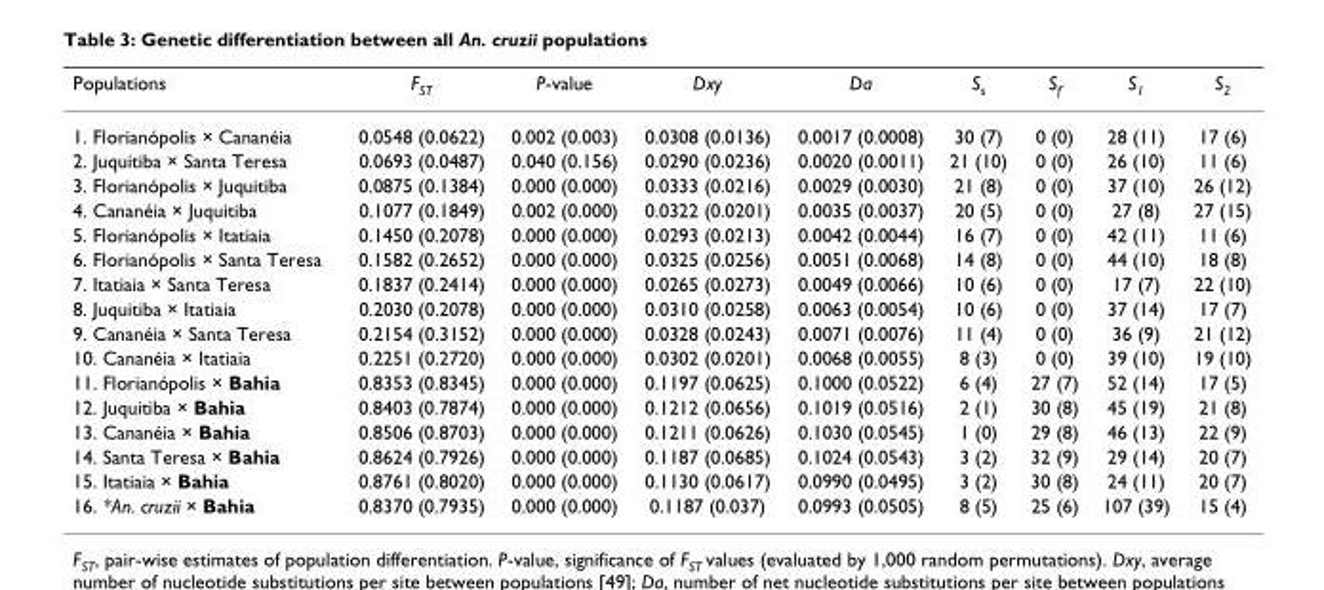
<table><thead><tr><td>Populations</td><td>F<sub>ST</sub></td><td>P-value</td><td>Dxy</td><td>Da</td><td>S<sub>s</sub></td><td>S<sub>f</sub></td><td>S<sub>1</sub></td><td>S<sub>2</sub></td></tr></thead><tbody><tr><td>1. Florianópolis × Cananéia</td><td>0.0548 (0.0622)</td><td>0.002 (0.003)</td><td>0.0308 (0.0136)</td><td>0.0017 (0.0008)</td><td>30 (7)</td><td>0 (0)</td><td>28 (11)</td><td>17 (6)</td></tr><tr><td>2. Juquitiba × Santa Teresa</td><td>0.0693 (0.0487)</td><td>0.040 (0.156)</td><td>0.0290 (0.0236)</td><td>0.0020 (0.0011)</td><td>21 (10)</td><td>0 (0)</td><td>26 (10)</td><td>11 (6)</td></tr><tr><td>3. Florianópolis × Juquitiba</td><td>0.0875 (0.1384)</td><td>0.000 (0.000)</td><td>0.0333 (0.0216)</td><td>0.0029 (0.0030)</td><td>21 (8)</td><td>0 (0)</td><td>37 (10)</td><td>26 (12)</td></tr><tr><td>4. Cananéia × Juquitiba</td><td>0.1077 (0.1849)</td><td>0.002 (0.000)</td><td>0.0322 (0.0201)</td><td>0.0035 (0.0037)</td><td>20 (5)</td><td>0 (0)</td><td>27 (8)</td><td>27 (15)</td></tr><tr><td>5. Florianópolis × Itatiaia</td><td>0.1450 (0.2078)</td><td>0.000 (0.000)</td><td>0.0293 (0.0213)</td><td>0.0042 (0.0044)</td><td>16 (7)</td><td>0 (0)</td><td>42 (11)</td><td>11 (6)</td></tr><tr><td>6. Florianópolis × Santa Teresa</td><td>0.1582 (0.2652)</td><td>0.000 (0.000)</td><td>0.0325 (0.0256)</td><td>0.0051 (0.0068)</td><td>14 (8)</td><td>0 (0)</td><td>44 (10)</td><td>18 (8)</td></tr><tr><td>7. Itatiaia × Santa Teresa</td><td>0.1837 (0.2414)</td><td>0.000 (0.000)</td><td>0.0265 (0.0273)</td><td>0.0049 (0.0066)</td><td>10 (6)</td><td>0 (0)</td><td>17 (7)</td><td>22 (10)</td></tr><tr><td>8. Juquitiba × Itatiaia</td><td>0.2030 (0.2078)</td><td>0.000 (0.000)</td><td>0.0310 (0.0258)</td><td>0.0063 (0.0054)</td><td>10 (6)</td><td>0 (0)</td><td>37 (14)</td><td>17 (7)</td></tr><tr><td>9. Cananéia × Santa Teresa</td><td>0.2154 (0.3152)</td><td>0.000 (0.000)</td><td>0.0328 (0.0243)</td><td>0.0071 (0.0076)</td><td>11 (4)</td><td>0 (0)</td><td>36 (9)</td><td>21 (12)</td></tr><tr><td>10. Cananéia × Itatiaia</td><td>0.2251 (0.2720)</td><td>0.000 (0.000)</td><td>0.0302 (0.0201)</td><td>0.0068 (0.0055)</td><td>8 (3)</td><td>0 (0)</td><td>39 (10)</td><td>19 (10)</td></tr><tr><td>11. Florianópolis × Bahia</td><td>0.8353 (0.8345)</td><td>0.000 (0.000)</td><td>0.1197 (0.0625)</td><td>0.1000 (0.0522)</td><td>6 (4)</td><td>27 (7)</td><td>52 (14)</td><td>17 (5)</td></tr><tr><td>12. Juquitiba × Bahia</td><td>0.8403 (0.7874)</td><td>0.000 (0.000)</td><td>0.1212 (0.0656)</td><td>0.1019 (0.0516)</td><td>2 (1)</td><td>30 (8)</td><td>45 (19)</td><td>21 (8)</td></tr><tr><td>13. Cananéia × Bahia</td><td>0.8506 (0.8703)</td><td>0.000 (0.000)</td><td>0.1211 (0.0626)</td><td>0.1030 (0.0545)</td><td>1 (0)</td><td>29 (8)</td><td>46 (13)</td><td>22 (9)</td></tr><tr><td>14. Santa Teresa × Bahia</td><td>0.8624 (0.7926)</td><td>0.000 (0.000)</td><td>0.1187 (0.0685)</td><td>0.1024 (0.0543)</td><td>3 (2)</td><td>32 (9)</td><td>29 (14)</td><td>20 (7)</td></tr><tr><td>15. Itatiaia × Bahia</td><td>0.8761 (0.8020)</td><td>0.000 (0.000)</td><td>0.1130 (0.0617)</td><td>0.0990 (0.0495)</td><td>3 (2)</td><td>30 (8)</td><td>24 (11)</td><td>20 (7)</td></tr><tr><td>16. *An. cruzii × Bahia</td><td>0.8370 (0.7935)</td><td>0.000 (0.000)</td><td>0.1187 (0.037)</td><td>0.0993 (0.0505)</td><td>8 (5)</td><td>25 (6)</td><td>107 (39)</td><td>15 (4)</td></tr></tbody></table>